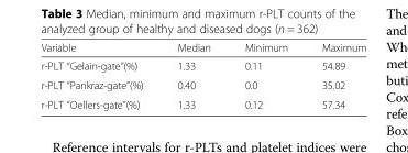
<table><thead><tr><td>Variable</td><td>Median</td><td>Minimum</td><td>Maximum</td></tr></thead><tbody><tr><td>r-PLT “Gelain-gate”(%)</td><td>1.33</td><td>0.11</td><td>54.89</td></tr><tr><td>r-PLT “Pankraz-gate”(%)</td><td>0.40</td><td>0.0</td><td>35.02</td></tr><tr><td>r-PLT “Oellers-gate”(%)</td><td>1.33</td><td>0.12</td><td>57.34</td></tr></tbody></table>